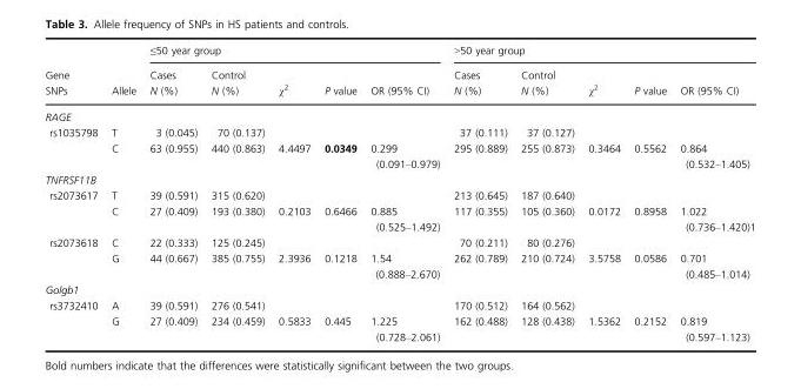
<table><thead><tr><td rowspan="2">Gene SNPs</td><td rowspan="2">Allele</td><td colspan="5">≤50 year group</td><td colspan="5">&gt;50 year group</td></tr><tr><td>Cases N (%)</td><td>Control N (%)</td><td>χ<sup>2</sup></td><td>P value</td><td>OR (95% CI)</td><td>Cases N (%)</td><td>Control N (%)</td><td>χ<sup>2</sup></td><td>P value</td><td>OR (95% CI)</td></tr></thead><tbody><tr><td colspan="12">RAGE</td></tr><tr><td rowspan="2">rs1035798</td><td>T</td><td>3 (0.045)</td><td>70 (0.137)</td><td></td><td></td><td></td><td>37 (0.111)</td><td>37 (0.127)</td><td></td><td></td><td></td></tr><tr><td>C</td><td>63 (0.955)</td><td>440 (0.863)</td><td>4.4497</td><td>0.0349</td><td>0.299 (0.091–0.979)</td><td>295 (0.889)</td><td>255 (0.873)</td><td>0.3464</td><td>0.5562</td><td>0.864 (0.532–1.405)</td></tr><tr><td colspan="12">TNFRSF11B</td></tr><tr><td rowspan="2">rs2073617</td><td>T</td><td>39 (0.591)</td><td>315 (0.620)</td><td></td><td></td><td></td><td>213 (0.645)</td><td>187 (0.640)</td><td></td><td></td><td></td></tr><tr><td>C</td><td>27 (0.409)</td><td>193 (0.380)</td><td>0.2103</td><td>0.6466</td><td>0.885 (0.525–1.492)</td><td>117 (0.355)</td><td>105 (0.360)</td><td>0.0172</td><td>0.8958</td><td>1.022 (0.736–1.420)1</td></tr><tr><td rowspan="2">rs2073618</td><td>C</td><td>22 (0.333)</td><td>125 (0.245)</td><td></td><td></td><td></td><td>70 (0.211)</td><td>80 (0.276)</td><td></td><td></td><td></td></tr><tr><td>G</td><td>44 (0.667)</td><td>385 (0.755)</td><td>2.3936</td><td>0.1218</td><td>1.54 (0.888–2.670)</td><td>262 (0.789)</td><td>210 (0.724)</td><td>3.5758</td><td>0.0586</td><td>0.701 (0.485–1.014)</td></tr><tr><td colspan="12">Golgb1</td></tr><tr><td rowspan="2">rs3732410</td><td>A</td><td>39 (0.591)</td><td>276 (0.541)</td><td></td><td></td><td></td><td>170 (0.512)</td><td>164 (0.562)</td><td></td><td></td><td></td></tr><tr><td>G</td><td>27 (0.409)</td><td>234 (0.459)</td><td>0.5833</td><td>0.445</td><td>1.225 (0.728–2.061)</td><td>162 (0.488)</td><td>128 (0.438)</td><td>1.5362</td><td>0.2152</td><td>0.819 (0.597–1.123)</td></tr></tbody></table>